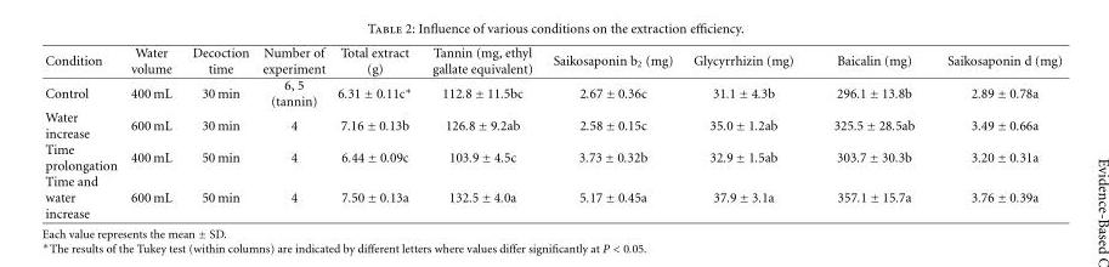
<table><thead><tr><td>Condition</td><td>Water volume</td><td>Decoction time</td><td>Number of experiment</td><td>Total extract (g)</td><td>Tannin (mg, ethyl gallate equivalent)</td><td>Saikosaponin b<sub>2</sub> (mg)</td><td>Glycyrrhizin (mg)</td><td>Baicalin (mg)</td><td>Saikosaponin d (mg)</td></tr></thead><tbody><tr><td>Control</td><td>400 mL</td><td>30 min</td><td>6, 5 (tannin)</td><td>6.31 ± 0.11c∗</td><td>112.8 ± 11.5bc</td><td>2.67 ± 0.36c</td><td>31.1 ± 4.3b</td><td>296.1 ± 13.8b</td><td>2.89 ± 0.78a</td></tr><tr><td>Water increase</td><td>600 mL</td><td>30 min</td><td>4</td><td>7.16 ± 0.13b</td><td>126.8 ± 9.2ab</td><td>2.58 ± 0.15c</td><td>35.0 ± 1.2ab</td><td>325.5 ± 28.5ab</td><td>3.49 ± 0.66a</td></tr><tr><td>Time prolongation</td><td>400 mL</td><td>50 min</td><td>4</td><td>6.44 ± 0.09c</td><td>103.9 ± 4.5c</td><td>3.73 ± 0.32b</td><td>32.9 ± 1.5ab</td><td>303.7 ± 30.3b</td><td>3.20 ± 0.31a</td></tr><tr><td>Time and water increase</td><td>600 mL</td><td>50 min</td><td>4</td><td>7.50 ± 0.13a</td><td>132.5 ± 4.0a</td><td>5.17 ± 0.45a</td><td>37.9 ± 3.1a</td><td>357.1 ± 15.7a</td><td>3.76 ± 0.39a</td></tr></tbody></table>